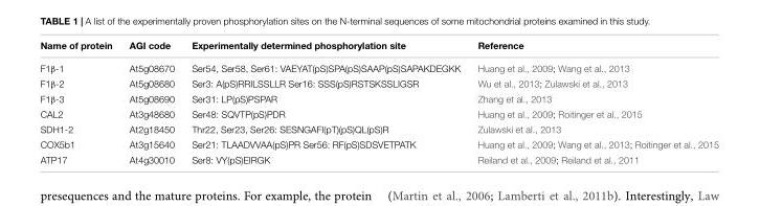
<table><thead><tr><td>Name of protein</td><td>AGI code</td><td>Experimentally determined phosphorylation site</td><td>Reference</td></tr></thead><tbody><tr><td>F1β-1</td><td>At5g08670</td><td>Ser54, Ser58, Ser61: VAEYAT(pS)SPA(pS)SAAP(pS)SAPAKDEGKK</td><td>Huang et al., 2009; Wang et al., 2013</td></tr><tr><td>F1β-2</td><td>At5g08680</td><td>Ser3: A(pS)RRILSSLLR Ser16: SSS(pS)RSTSKSSLIGSR</td><td>Wu et al., 2013; Zulawski et al., 2013</td></tr><tr><td>F1β-3</td><td>At5g08690</td><td>Ser31: LP(pS)PSPAR</td><td>Zhang et al., 2013</td></tr><tr><td>CAL2</td><td>At3g48680</td><td>Ser48: SQVTP(pS)PDR</td><td>Huang et al., 2009; Roitinger et al., 2015</td></tr><tr><td>SDH1-2</td><td>At2g18450</td><td>Thr22, Ser23, Ser26: SESNGAFI(pT)(pS)QL(pS)R</td><td>Zulawski et al., 2013</td></tr><tr><td>COX5b1</td><td>At3g15640</td><td>Ser21: TLAADVVAA(pS)PR Ser56: RF(pS)SDSVETPATK</td><td>Huang et al., 2009; Wang et al., 2013; Roitinger et al., 2015</td></tr><tr><td>ATP17</td><td>At4g30010</td><td>Ser8: VY(pS)EIRGK</td><td>Reiland et al., 2009; Reiland et al., 2011</td></tr></tbody></table>